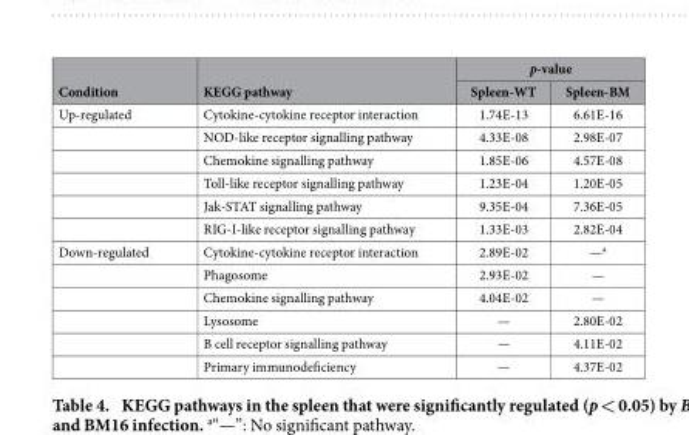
<table><thead><tr><td rowspan="2">Condition</td><td rowspan="2">KEGG pathway</td><td colspan="2">p-value</td></tr><tr><td>Spleen-WT</td><td>Spleen-BM</td></tr></thead><tbody><tr><td rowspan="6">Up-regulated</td><td>Cytokine-cytokine receptor interaction</td><td>1.74E-13</td><td>6.61E-16</td></tr><tr><td>NOD-like receptor signalling pathway</td><td>4.33E-08</td><td>2.98E-07</td></tr><tr><td>Chemokine signalling pathway</td><td>1.85E-06</td><td>4.57E-08</td></tr><tr><td>Toll-like receptor signalling pathway</td><td>1.23E-04</td><td>1.20E-05</td></tr><tr><td>Jak-STAT signalling pathway</td><td>9.35E-04</td><td>7.36E-05</td></tr><tr><td>RIG-I-like receptor signalling pathway</td><td>1.33E-03</td><td>2.82E-04</td></tr><tr><td rowspan="6">Down-regulated</td><td>Cytokine-cytokine receptor interaction</td><td>2.89E-02</td><td>—a</td></tr><tr><td>Phagosome</td><td>2.93E-02</td><td>—</td></tr><tr><td>Chemokine signalling pathway</td><td>4.04E-02</td><td>—</td></tr><tr><td>Lysosome</td><td>—</td><td>2.80E-02</td></tr><tr><td>B cell receptor signalling pathway</td><td>—</td><td>4.11E-02</td></tr><tr><td>Primary immunodeficiency</td><td>—</td><td>4.37E-02</td></tr></tbody></table>